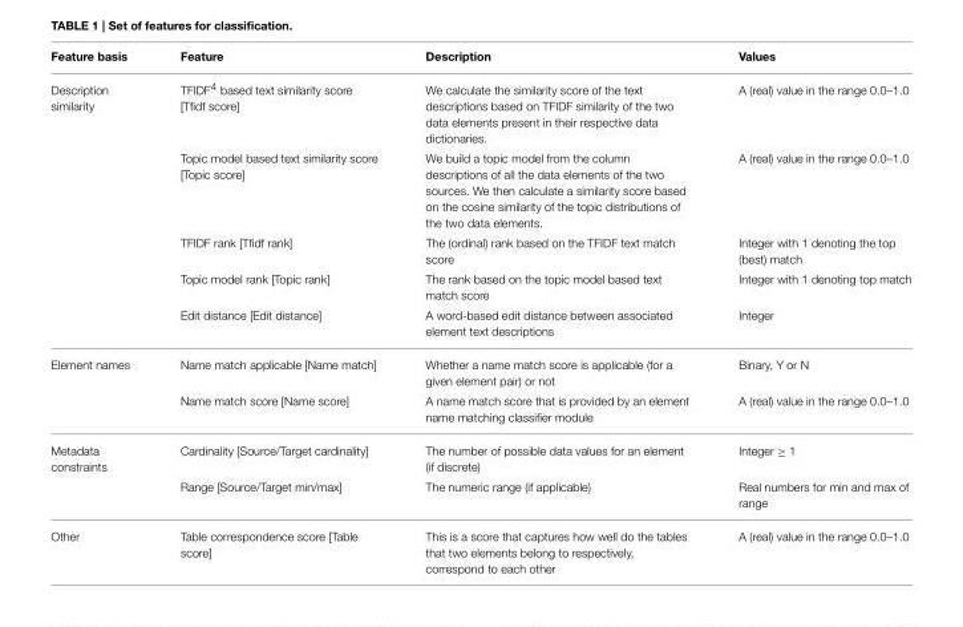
<table><thead><tr><td>Feature basis</td><td>Feature</td><td>Description</td><td>Values</td></tr></thead><tbody><tr><td rowspan="5">Description similarity</td><td>TFIDF<sup>4</sup> based text similarity score [Tfidf score]</td><td>We calculate the similarity score of the text descriptions based on TFIDF similarity of the two data elements present in their respective data dictionaries.</td><td>A (real) value in the range 0.0–1.0</td></tr><tr><td>Topic model based text similarity score [Topic score]</td><td>We build a topic model from the column descriptions of all the data elements of the two sources. We then calculate a similarity score based on the cosine similarity of the topic distributions of the two data elements.</td><td>A (real) value in the range 0.0–1.0</td></tr><tr><td>TFIDF rank [Tfidf rank]</td><td>The (ordinal) rank based on the TFIDF text match score</td><td>Integer with 1 denoting the top (best) match</td></tr><tr><td>Topic model rank [Topic rank]</td><td>The rank based on the topic model based text match score</td><td>Integer with 1 denoting top match</td></tr><tr><td>Edit distance [Edit distance]</td><td>A word-based edit distance between associated element text descriptions</td><td>Integer</td></tr><tr><td rowspan="2">Element names</td><td>Name match applicable [Name match]</td><td>Whether a name match score is applicable (for a given element pair) or not</td><td>Binary, Y or N</td></tr><tr><td>Name match score [Name score]</td><td>A name match score that is provided by an element name matching classifier module</td><td>A (real) value in the range 0.0–1.0</td></tr><tr><td rowspan="2">Metadata constraints</td><td>Cardinality [Source/Target cardinality]</td><td>The number of possible data values for an element (if discrete)</td><td>Integer ≥ 1</td></tr><tr><td>Range [Source/Target min/max]</td><td>The numeric range (if applicable)</td><td>Real numbers for min and max of range</td></tr><tr><td>Other</td><td>Table correspondence score [Table score]</td><td>This is a score that captures how well do the tables that two elements belong to respectively, correspond to each other</td><td>A (real) value in the range 0.0–1.0</td></tr></tbody></table>